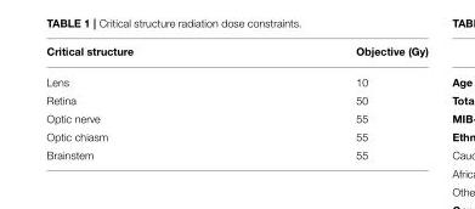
<table><thead><tr><td>Critical structure</td><td>Objective (Gy)</td></tr></thead><tbody><tr><td>Lens</td><td>10</td></tr><tr><td>Retina</td><td>50</td></tr><tr><td>Optic nerve</td><td>55</td></tr><tr><td>Optic chiasm</td><td>55</td></tr><tr><td>Brainstem</td><td>55</td></tr></tbody></table>